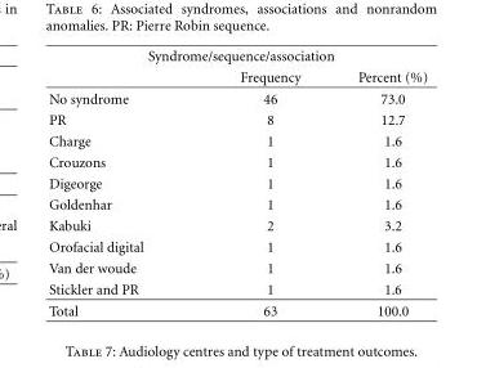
<table><thead><tr><td colspan="3">Syndrome/sequence/association</td></tr><tr><td></td><td>Frequency</td><td>Percent (%)</td></tr></thead><tbody><tr><td>No syndrome</td><td>46</td><td>73.0</td></tr><tr><td>PR</td><td>8</td><td>12.7</td></tr><tr><td>Charge</td><td>1</td><td>1.6</td></tr><tr><td>Crouzons</td><td>1</td><td>1.6</td></tr><tr><td>Digeorge</td><td>1</td><td>1.6</td></tr><tr><td>Goldenhar</td><td>1</td><td>1.6</td></tr><tr><td>Kabuki</td><td>2</td><td>3.2</td></tr><tr><td>Orofacial digital</td><td>1</td><td>1.6</td></tr><tr><td>Van der woude</td><td>1</td><td>1.6</td></tr><tr><td>Stickler and PR</td><td>1</td><td>1.6</td></tr><tr><td>Total</td><td>63</td><td>100.0</td></tr></tbody></table>